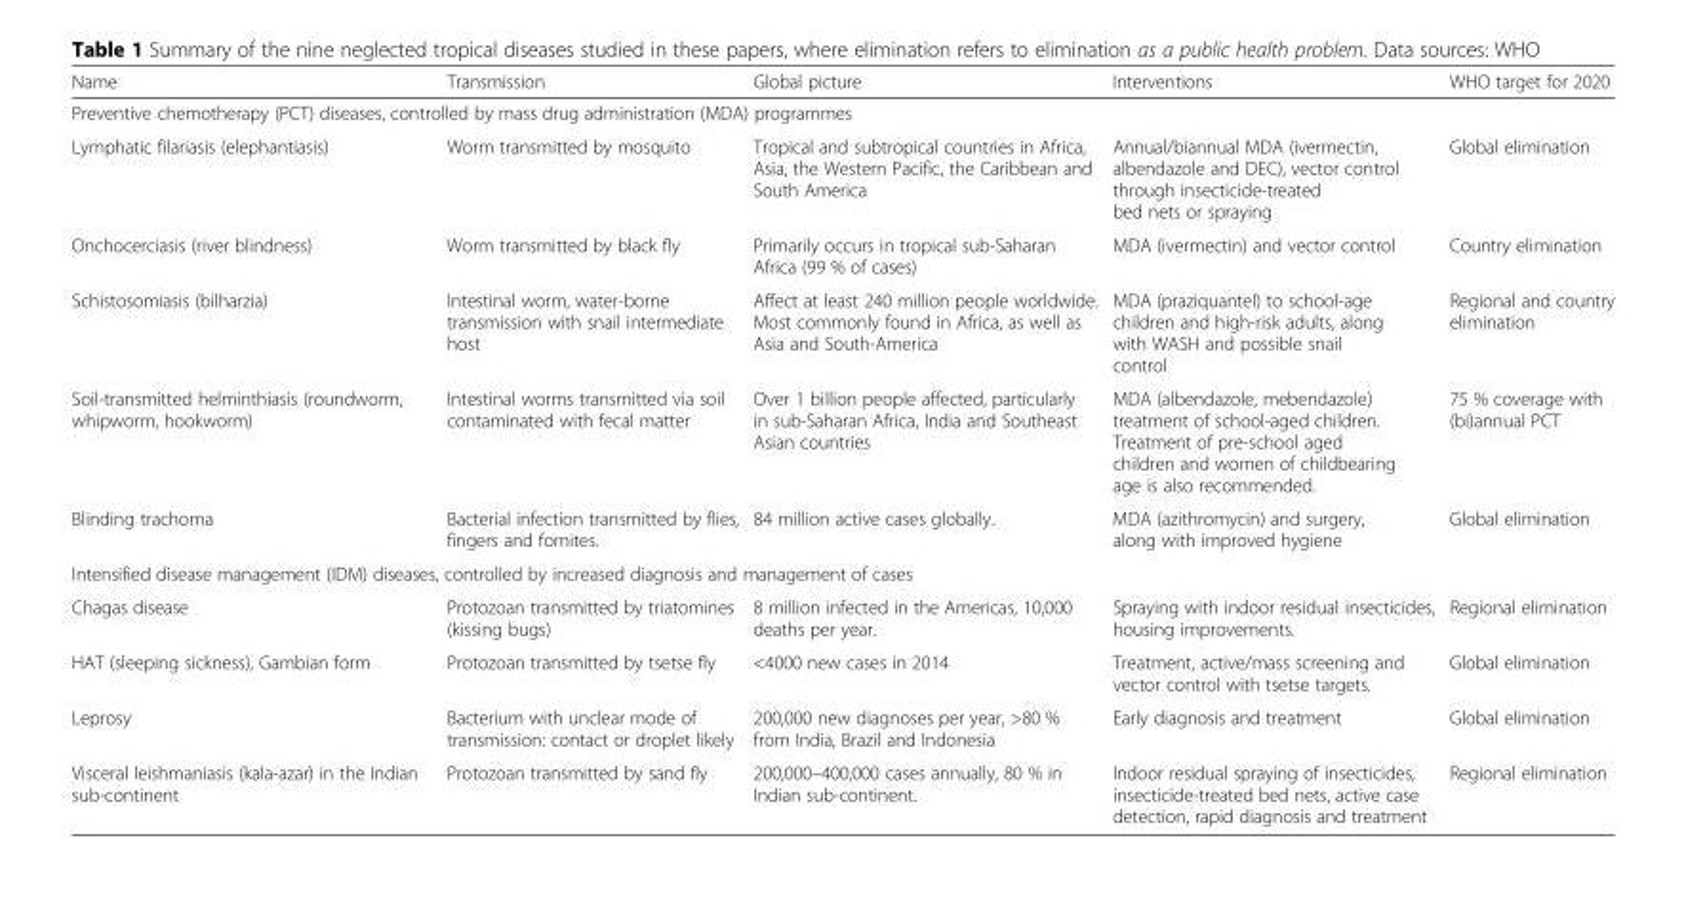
<table><thead><tr><td>Name</td><td>Transmission</td><td>Global picture</td><td>Interventions</td><td>WHO target for 2020</td></tr></thead><tbody><tr><td colspan="5">Preventive chemotherapy (PCT) diseases, controlled by mass drug administration (MDA) programmes</td></tr><tr><td>Lymphatic filariasis (elephantiasis)</td><td>Worm transmitted by mosquito</td><td>Tropical and subtropical countries in Africa, Asia, the Western Pacific, the Caribbean and South America</td><td>Annual/biannual MDA (ivermectin, albendazole and DEC), vector control through insecticide-treated bed nets or spraying</td><td>Global elimination</td></tr><tr><td>Onchocerciasis (river blindness)</td><td>Worm transmitted by black fly</td><td>Primarily occurs in tropical sub-Saharan Africa (99 % of cases)</td><td>MDA (ivermectin) and vector control</td><td>Country elimination</td></tr><tr><td>Schistosomiasis (bilharzia)</td><td>Intestinal worm, water-borne transmission with snail intermediate host</td><td>Affect at least 240 million people worldwide. Most commonly found in Africa, as well as Asia and South-America</td><td>MDA (praziquantel) to school-age children and high-risk adults, along with WASH and possible snail control</td><td>Regional and country elimination</td></tr><tr><td>Soil-transmitted helminthiasis (roundworm, whipworm, hookworm)</td><td>Intestinal worms transmitted via soil contaminated with fecal matter</td><td>Over 1 billion people affected, particularly in sub-Saharan Africa, India and Southeast Asian countries</td><td>MDA (albendazole, mebendazole) treatment of school-aged children. Treatment of pre-school aged children and women of childbearing age is also recommended.</td><td>75 % coverage with (bi)annual PCT</td></tr><tr><td>Blinding trachoma</td><td>Bacterial infection transmitted by flies, fingers and fomites.</td><td>84 million active cases globally.</td><td>MDA (azithromycin) and surgery, along with improved hygiene</td><td>Global elimination</td></tr><tr><td colspan="5">Intensified disease management (IDM) diseases, controlled by increased diagnosis and management of cases</td></tr><tr><td>Chagas disease</td><td>Protozoan transmitted by triatomines (kissing bugs)</td><td>8 million infected in the Americas, 10,000 deaths per year.</td><td>Spraying with indoor residual insecticides, housing improvements.</td><td>Regional elimination</td></tr><tr><td>HAT (sleeping sickness), Gambian form</td><td>Protozoan transmitted by tsetse fly</td><td>&lt;4000 new cases in 2014</td><td>Treatment, active/mass screening and vector control with tsetse targets.</td><td>Global elimination</td></tr><tr><td>Leprosy</td><td>Bacterium with unclear mode of transmission: contact or droplet likely</td><td>200,000 new diagnoses per year, &gt;80 % from India, Brazil and Indonesia</td><td>Early diagnosis and treatment</td><td>Global elimination</td></tr><tr><td>Visceral leishmaniasis (kala-azar) in the Indian sub-continent</td><td>Protozoan transmitted by sand fly</td><td>200,000–400,000 cases annually, 80 % in Indian sub-continent.</td><td>Indoor residual spraying of insecticides, insecticide-treated bed nets, active case detection, rapid diagnosis and treatment</td><td>Regional elimination</td></tr></tbody></table>